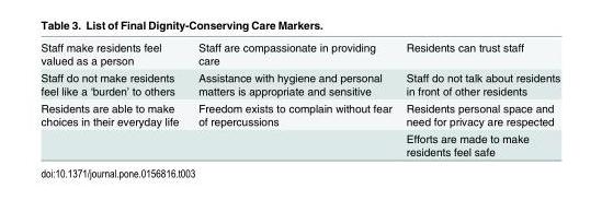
<table><tbody><tr><td>Staff make residents feel valued as a person</td><td>Staff are compassionate in providing care</td><td>Residents can trust staff</td></tr><tr><td>Staff do not make residents feel like a ‘burden’ to others</td><td>Assistance with hygiene and personal matters is appropriate and sensitive</td><td>Staff do not talk about residents in front of other residents</td></tr><tr><td rowspan="2">Residents are able to make choices in their everyday life</td><td>Freedom exists to complain without fear of repercussions</td><td>Residents personal space and need for privacy are respected</td></tr><tr><td></td><td>Efforts are made to make residents feel safe</td></tr></tbody></table>